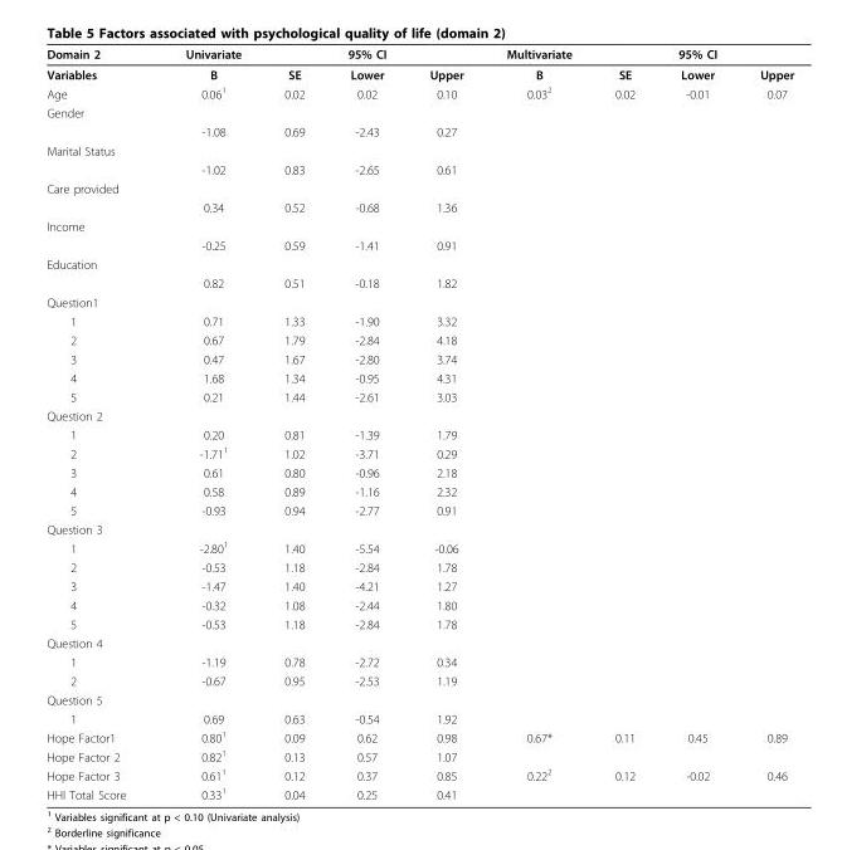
<table><thead><tr><td>Domain 2</td><td>Univariate</td><td></td><td>95% CI</td><td></td><td>Multivariate</td><td></td><td>95% CI</td><td></td></tr></thead><tbody><tr><td>Variables</td><td>B</td><td>SE</td><td>Lower</td><td>Upper</td><td>B</td><td>SE</td><td>Lower</td><td>Upper</td></tr><tr><td>Age</td><td>0.06<sup>1</sup></td><td>0.02</td><td>0.02</td><td>0.10</td><td>0.03<sup>2</sup></td><td>0.02</td><td>-0.01</td><td>0.07</td></tr><tr><td colspan="9">Gender</td></tr><tr><td></td><td>-1.08</td><td>0.69</td><td>-2.43</td><td>0.27</td><td></td><td></td><td></td><td></td></tr><tr><td colspan="9">Marital Status</td></tr><tr><td></td><td>-1.02</td><td>0.83</td><td>-2.65</td><td>0.61</td><td></td><td></td><td></td><td></td></tr><tr><td colspan="9">Care provided</td></tr><tr><td></td><td>0.34</td><td>0.52</td><td>-0.68</td><td>1.36</td><td></td><td></td><td></td><td></td></tr><tr><td colspan="9">Income</td></tr><tr><td></td><td>-0.25</td><td>0.59</td><td>-1.41</td><td>0.91</td><td></td><td></td><td></td><td></td></tr><tr><td colspan="9">Education</td></tr><tr><td></td><td>0.82</td><td>0.51</td><td>-0.18</td><td>1.82</td><td></td><td></td><td></td><td></td></tr><tr><td colspan="9">Question1</td></tr><tr><td>1</td><td>0.71</td><td>1.33</td><td>-1.90</td><td>3.32</td><td></td><td></td><td></td><td></td></tr><tr><td>2</td><td>0.67</td><td>1.79</td><td>-2.84</td><td>4.18</td><td></td><td></td><td></td><td></td></tr><tr><td>3</td><td>0.47</td><td>1.67</td><td>-2.80</td><td>3.74</td><td></td><td></td><td></td><td></td></tr><tr><td>4</td><td>1.68</td><td>1.34</td><td>-0.95</td><td>4.31</td><td></td><td></td><td></td><td></td></tr><tr><td>5</td><td>0.21</td><td>1.44</td><td>-2.61</td><td>3.03</td><td></td><td></td><td></td><td></td></tr><tr><td colspan="9">Question 2</td></tr><tr><td>1</td><td>0.20</td><td>0.81</td><td>-1.39</td><td>1.79</td><td></td><td></td><td></td><td></td></tr><tr><td>2</td><td>-1.71<sup>1</sup></td><td>1.02</td><td>-3.71</td><td>0.29</td><td></td><td></td><td></td><td></td></tr><tr><td>3</td><td>0.61</td><td>0.80</td><td>-0.96</td><td>2.18</td><td></td><td></td><td></td><td></td></tr><tr><td>4</td><td>0.58</td><td>0.89</td><td>-1.16</td><td>2.32</td><td></td><td></td><td></td><td></td></tr><tr><td>5</td><td>-0.93</td><td>0.94</td><td>-2.77</td><td>0.91</td><td></td><td></td><td></td><td></td></tr><tr><td colspan="9">Question 3</td></tr><tr><td>1</td><td>-2.80<sup>1</sup></td><td>1.40</td><td>-5.54</td><td>-0.06</td><td></td><td></td><td></td><td></td></tr><tr><td>2</td><td>-0.53</td><td>1.18</td><td>-2.84</td><td>1.78</td><td></td><td></td><td></td><td></td></tr><tr><td>3</td><td>-1.47</td><td>1.40</td><td>-4.21</td><td>1.27</td><td></td><td></td><td></td><td></td></tr><tr><td>4</td><td>-0.32</td><td>1.08</td><td>-2.44</td><td>1.80</td><td></td><td></td><td></td><td></td></tr><tr><td>5</td><td>-0.53</td><td>1.18</td><td>-2.84</td><td>1.78</td><td></td><td></td><td></td><td></td></tr><tr><td colspan="9">Question 4</td></tr><tr><td>1</td><td>-1.19</td><td>0.78</td><td>-2.72</td><td>0.34</td><td></td><td></td><td></td><td></td></tr><tr><td>2</td><td>-0.67</td><td>0.95</td><td>-2.53</td><td>1.19</td><td></td><td></td><td></td><td></td></tr><tr><td colspan="9">Question 5</td></tr><tr><td>1</td><td>0.69</td><td>0.63</td><td>-0.54</td><td>1.92</td><td></td><td></td><td></td><td></td></tr><tr><td>Hope Factor1</td><td>0.80<sup>1</sup></td><td>0.09</td><td>0.62</td><td>0.98</td><td>0.67*</td><td>0.11</td><td>0.45</td><td>0.89</td></tr><tr><td>Hope Factor 2</td><td>0.82<sup>1</sup></td><td>0.13</td><td>0.57</td><td>1.07</td><td></td><td></td><td></td><td></td></tr><tr><td>Hope Factor 3</td><td>0.61<sup>1</sup></td><td>0.12</td><td>0.37</td><td>0.85</td><td>0.22<sup>2</sup></td><td>0.12</td><td>-0.02</td><td>0.46</td></tr><tr><td>HHI Total Score</td><td>0.33<sup>1</sup></td><td>0.04</td><td>0.25</td><td>0.41</td><td></td><td></td><td></td><td></td></tr></tbody></table>